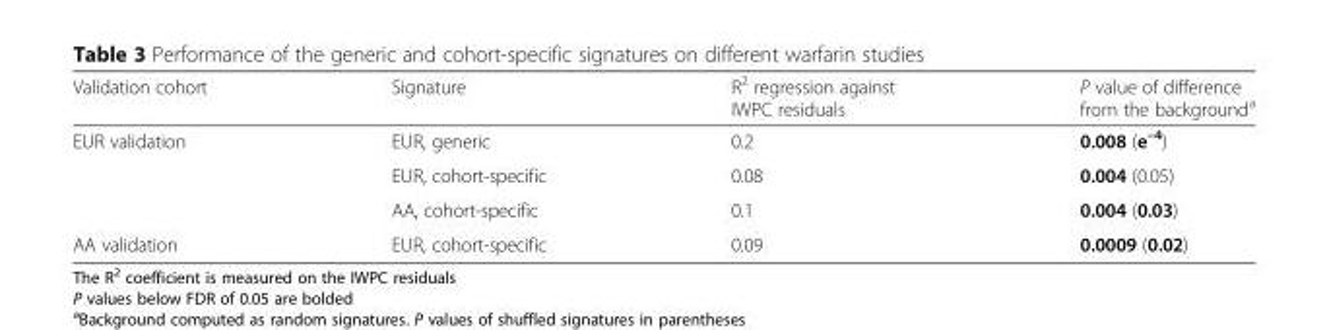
<table><thead><tr><td>Validation cohort</td><td>Signature</td><td>R<sup>2</sup> regression against IWPC residuals</td><td>P value of difference from the background<sup>a</sup></td></tr></thead><tbody><tr><td rowspan="3">EUR validation</td><td>EUR, generic</td><td>0.2</td><td>0.008 (e<sup>–4</sup>)</td></tr><tr><td>EUR, cohort-specific</td><td>0.08</td><td>0.004 (0.05)</td></tr><tr><td>AA, cohort-specific</td><td>0.1</td><td>0.004 (0.03)</td></tr><tr><td>AA validation</td><td>EUR, cohort-specific</td><td>0.09</td><td>0.0009 (0.02)</td></tr></tbody></table>